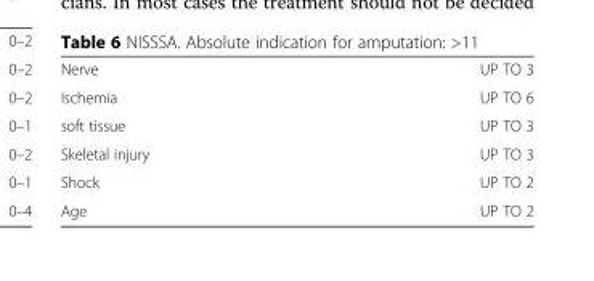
<table><tbody><tr><td>Nerve</td><td>UP TO 3</td></tr><tr><td>Ischemia</td><td>UP TO 6</td></tr><tr><td>soft tissue</td><td>UP TO 3</td></tr><tr><td>Skeletal injury</td><td>UP TO 3</td></tr><tr><td>Shock</td><td>UP TO 2</td></tr><tr><td>Age</td><td>UP TO 2</td></tr></tbody></table>